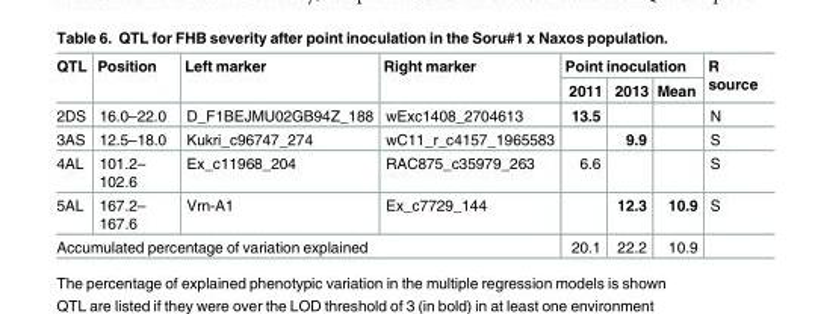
<table><thead><tr><td rowspan="2">QTL</td><td rowspan="2">Position</td><td rowspan="2">Left marker</td><td rowspan="2">Right marker</td><td colspan="3">Point inoculation</td><td rowspan="2">R source</td></tr><tr><td>2011</td><td>2013</td><td>Mean</td></tr></thead><tbody><tr><td>2DS</td><td>16.0–22.0</td><td>D_F1BEJMU02GB94Z_188</td><td>wExc1408_2704613</td><td>13.5</td><td></td><td></td><td>N</td></tr><tr><td>3AS</td><td>12.5–18.0</td><td>Kukri_c96747_274</td><td>wC11_r_c4157_1965583</td><td></td><td>9.9</td><td></td><td>S</td></tr><tr><td>4AL</td><td>101.2– 102.6</td><td>Ex_c11968_204</td><td>RAC875_c35979_263</td><td>6.6</td><td></td><td></td><td>S</td></tr><tr><td>5AL</td><td>167.2– 167.6</td><td>Vrn-A1</td><td>Ex_c7729_144</td><td></td><td>12.3</td><td>10.9</td><td>S</td></tr><tr><td colspan="4">Accumulated percentage of variation explained</td><td>20.1</td><td>22.2</td><td>10.9</td><td></td></tr></tbody></table>